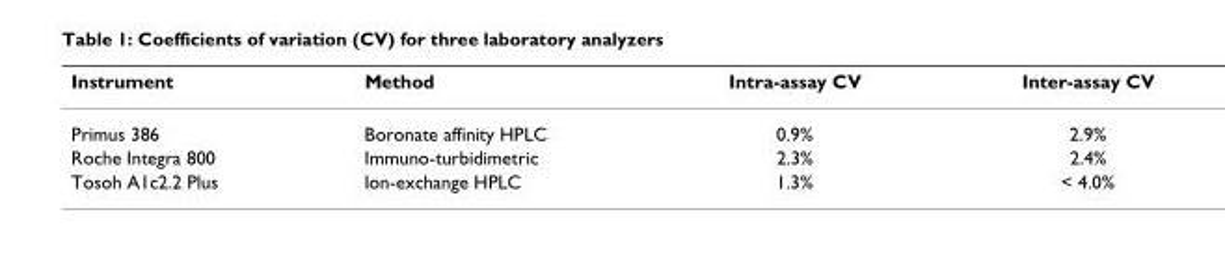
<table><thead><tr><td>Instrument</td><td>Method</td><td>Intra-assay CV</td><td>Inter-assay CV</td></tr></thead><tbody><tr><td>Primus 386</td><td>Boronate affinity HPLC</td><td>0.9%</td><td>2.9%</td></tr><tr><td>Roche Integra 800</td><td>Immuno-turbidimetric</td><td>2.3%</td><td>2.4%</td></tr><tr><td>Tosoh A1c2.2 Plus</td><td>Ion-exchange HPLC</td><td>1.3%</td><td>&lt; 4.0%</td></tr></tbody></table>